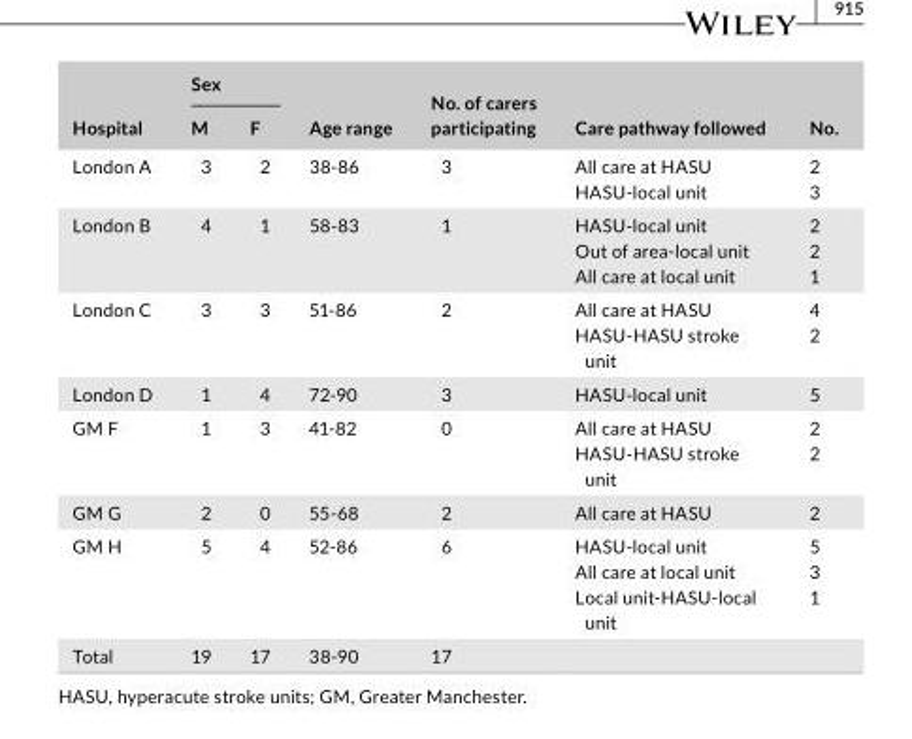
<table><thead><tr><td rowspan="2">Hospital</td><td colspan="2">Sex</td><td rowspan="2">Age range</td><td rowspan="2">No. of carers participating</td><td rowspan="2">Care pathway followed</td><td rowspan="2">No.</td></tr><tr><td>M</td><td>F</td></tr></thead><tbody><tr><td>London A</td><td>3</td><td>2</td><td>38- 86</td><td>3</td><td>All care at HASU HASU- local unit</td><td>2 3</td></tr><tr><td>London B</td><td>4</td><td>1</td><td>58- 83</td><td>1</td><td>HASU- local unit Out of area- local unit All care at local unit</td><td>2 2 1</td></tr><tr><td>London C</td><td>3</td><td>3</td><td>51- 86</td><td>2</td><td>All care at HASU HASU- HASU stroke unit</td><td>4 2</td></tr><tr><td>London D</td><td>1</td><td>4</td><td>72- 90</td><td>3</td><td>HASU- local unit</td><td>5</td></tr><tr><td>GM F</td><td>1</td><td>3</td><td>41- 82</td><td>0</td><td>All care at HASU HASU- HASU stroke unit</td><td>2 2</td></tr><tr><td>GM G</td><td>2</td><td>0</td><td>55- 68</td><td>2</td><td>All care at HASU</td><td>2</td></tr><tr><td>GM H</td><td>5</td><td>4</td><td>52- 86</td><td>6</td><td>HASU- local unit All care at local unit Local unit- HASU- local unit</td><td>5 3 1</td></tr><tr><td>Total</td><td>19</td><td>17</td><td>38- 90</td><td>17</td><td colspan="2"></td></tr></tbody></table>